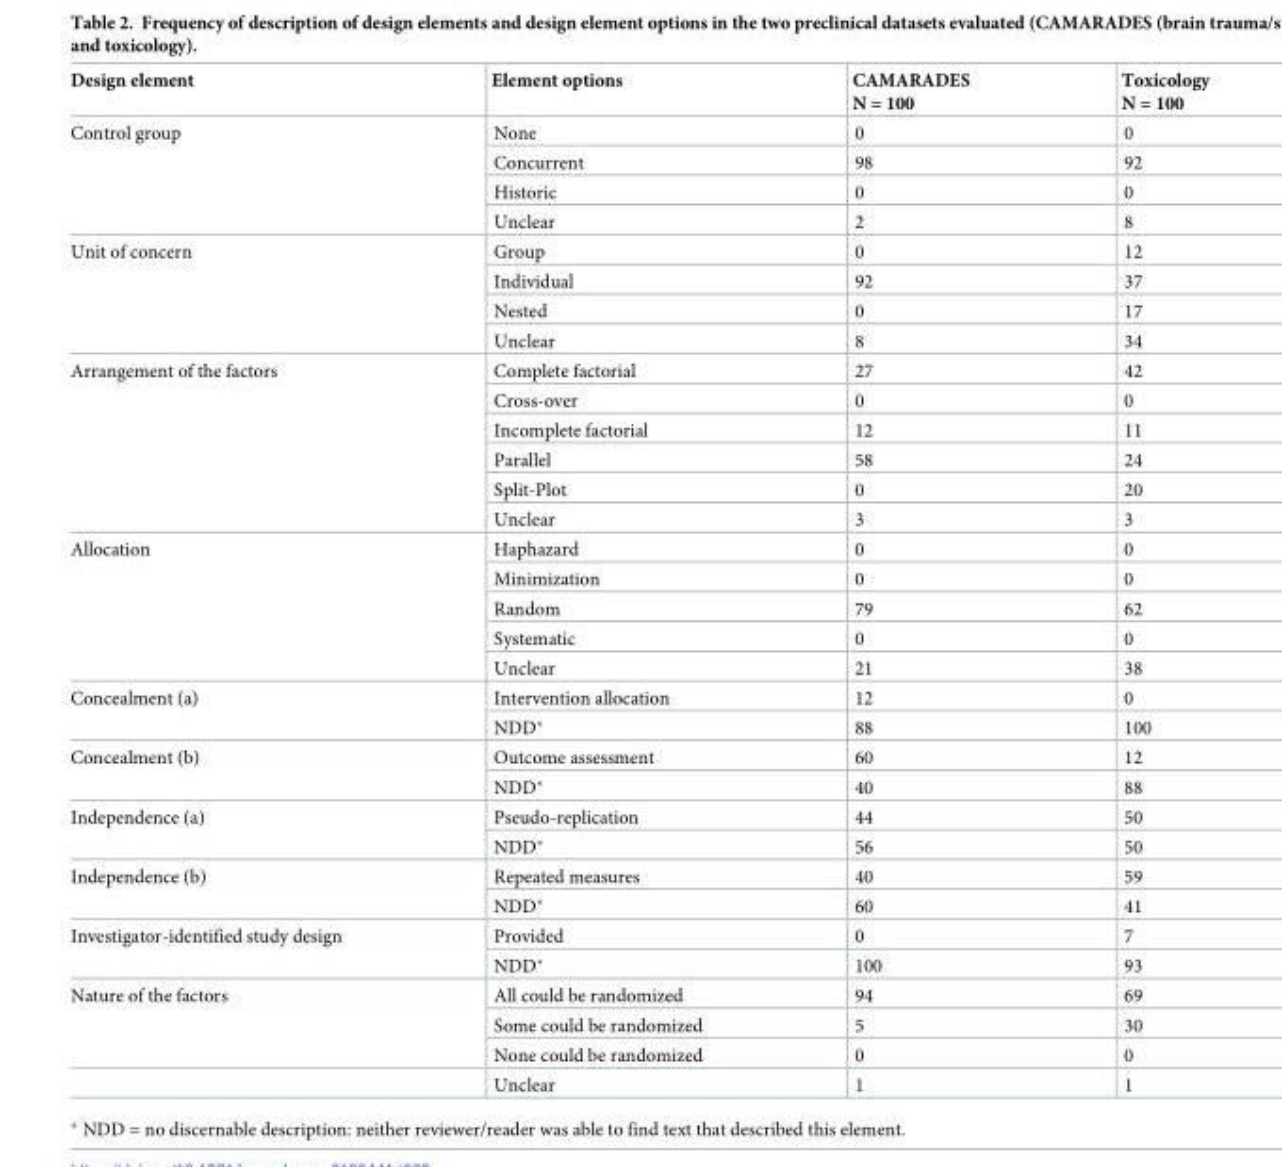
<table><thead><tr><td>Design element</td><td>Element options</td><td>CAMARADES N = 100</td><td>Toxicology N = 100</td></tr></thead><tbody><tr><td rowspan="4">Control group</td><td>None</td><td>0</td><td>0</td></tr><tr><td>Concurrent</td><td>98</td><td>92</td></tr><tr><td>Historic</td><td>0</td><td>0</td></tr><tr><td>Unclear</td><td>2</td><td>8</td></tr><tr><td rowspan="4">Unit of concern</td><td>Group</td><td>0</td><td>12</td></tr><tr><td>Individual</td><td>92</td><td>37</td></tr><tr><td>Nested</td><td>0</td><td>17</td></tr><tr><td>Unclear</td><td>8</td><td>34</td></tr><tr><td rowspan="6">Arrangement of the factors</td><td>Complete factorial</td><td>27</td><td>42</td></tr><tr><td>Cross-over</td><td>0</td><td>0</td></tr><tr><td>Incomplete factorial</td><td>12</td><td>11</td></tr><tr><td>Parallel</td><td>58</td><td>24</td></tr><tr><td>Split-Plot</td><td>0</td><td>20</td></tr><tr><td>Unclear</td><td>3</td><td>3</td></tr><tr><td rowspan="5">Allocation</td><td>Haphazard</td><td>0</td><td>0</td></tr><tr><td>Minimization</td><td>0</td><td>0</td></tr><tr><td>Random</td><td>79</td><td>62</td></tr><tr><td>Systematic</td><td>0</td><td>0</td></tr><tr><td>Unclear</td><td>21</td><td>38</td></tr><tr><td rowspan="2">Concealment (a)</td><td>Intervention allocation</td><td>12</td><td>0</td></tr><tr><td>NDD*</td><td>88</td><td>100</td></tr><tr><td rowspan="2">Concealment (b)</td><td>Outcome assessment</td><td>60</td><td>12</td></tr><tr><td>NDD*</td><td>40</td><td>88</td></tr><tr><td rowspan="2">Independence (a)</td><td>Pseudo-replication</td><td>44</td><td>50</td></tr><tr><td>NDD*</td><td>56</td><td>50</td></tr><tr><td rowspan="2">Independence (b)</td><td>Repeated measures</td><td>40</td><td>59</td></tr><tr><td>NDD*</td><td>60</td><td>41</td></tr><tr><td rowspan="2">Investigator-identified study design</td><td>Provided</td><td>0</td><td>7</td></tr><tr><td>NDD*</td><td>100</td><td>93</td></tr><tr><td rowspan="4">Nature of the factors</td><td>All could be randomized</td><td>94</td><td>69</td></tr><tr><td>Some could be randomized</td><td>5</td><td>30</td></tr><tr><td>None could be randomized</td><td>0</td><td>0</td></tr><tr><td>Unclear</td><td>1</td><td>1</td></tr></tbody></table>